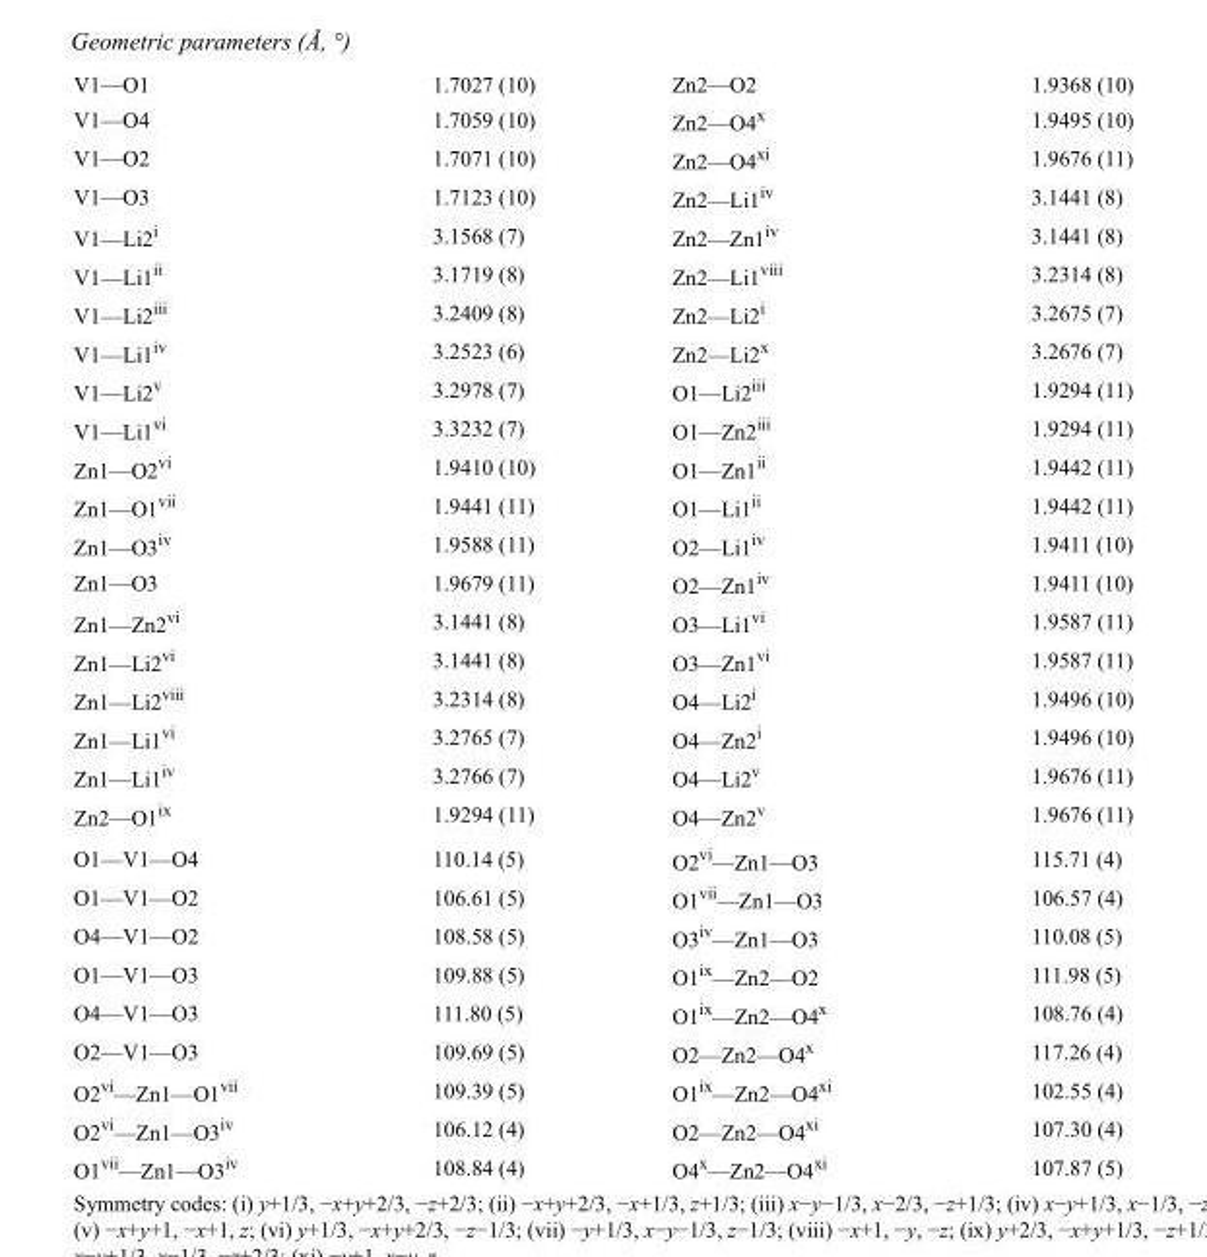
<table><tbody><tr><td>V1—O1</td><td>1.7027 (10)</td><td>Zn2—O2</td><td>1.9368 (10)</td></tr><tr><td>V1—O4</td><td>1.7059 (10)</td><td>Zn2—O4<sup>x</sup></td><td>1.9495 (10)</td></tr><tr><td>V1—O2</td><td>1.7071 (10)</td><td>Zn2—O4<sup>xi</sup></td><td>1.9676 (11)</td></tr><tr><td>V1—O3</td><td>1.7123 (10)</td><td>Zn2—Li1<sup>iv</sup></td><td>3.1441 (8)</td></tr><tr><td>V1—Li2<sup>i</sup></td><td>3.1568 (7)</td><td>Zn2—Zn1<sup>iv</sup></td><td>3.1441 (8)</td></tr><tr><td>V1—Li1<sup>ii</sup></td><td>3.1719 (8)</td><td>Zn2—Li1<sup>viii</sup></td><td>3.2314 (8)</td></tr><tr><td>V1—Li2<sup>iii</sup></td><td>3.2409 (8)</td><td>Zn2—Li2<sup>i</sup></td><td>3.2675 (7)</td></tr><tr><td>V1—Li1<sup>iv</sup></td><td>3.2523 (6)</td><td>Zn2—Li2<sup>x</sup></td><td>3.2676 (7)</td></tr><tr><td>V1—Li2<sup>v</sup></td><td>3.2978 (7)</td><td>O1—Li2<sup>iii</sup></td><td>1.9294 (11)</td></tr><tr><td>V1—Li1<sup>vi</sup></td><td>3.3232 (7)</td><td>O1—Zn2<sup>iii</sup></td><td>1.9294 (11)</td></tr><tr><td>Zn1—O2<sup>vi</sup></td><td>1.9410 (10)</td><td>O1—Zn1<sup>ii</sup></td><td>1.9442 (11)</td></tr><tr><td>Zn1—O1<sup>vii</sup></td><td>1.9441 (11)</td><td>O1—Li1<sup>ii</sup></td><td>1.9442 (11)</td></tr><tr><td>Zn1—O3<sup>iv</sup></td><td>1.9588 (11)</td><td>O2—Li1<sup>iv</sup></td><td>1.9411 (10)</td></tr><tr><td>Zn1—O3</td><td>1.9679 (11)</td><td>O2—Zn1<sup>iv</sup></td><td>1.9411 (10)</td></tr><tr><td>Zn1—Zn2<sup>vi</sup></td><td>3.1441 (8)</td><td>O3—Li1<sup>vi</sup></td><td>1.9587 (11)</td></tr><tr><td>Zn1—Li2<sup>vi</sup></td><td>3.1441 (8)</td><td>O3—Zn1<sup>vi</sup></td><td>1.9587 (11)</td></tr><tr><td>Zn1—Li2<sup>viii</sup></td><td>3.2314 (8)</td><td>O4—Li2<sup>i</sup></td><td>1.9496 (10)</td></tr><tr><td>Zn1—Li1<sup>vi</sup></td><td>3.2765 (7)</td><td>O4—Zn2<sup>i</sup></td><td>1.9496 (10)</td></tr><tr><td>Zn1—Li1<sup>iv</sup></td><td>3.2766 (7)</td><td>O4—Li2<sup>v</sup></td><td>1.9676 (11)</td></tr><tr><td>Zn2—O1<sup>ix</sup></td><td>1.9294 (11)</td><td>O4—Zn2<sup>v</sup></td><td>1.9676 (11)</td></tr><tr><td>O1—V1—O4</td><td>110.14 (5)</td><td>O2<sup>vi</sup>—Zn1—O3</td><td>115.71 (4)</td></tr><tr><td>O1—V1—O2</td><td>106.61 (5)</td><td>O1<sup>vii</sup>—Zn1—O3</td><td>106.57 (4)</td></tr><tr><td>O4—V1—O2</td><td>108.58 (5)</td><td>O3<sup>iv</sup>—Zn1—O3</td><td>110.08 (5)</td></tr><tr><td>O1—V1—O3</td><td>109.88 (5)</td><td>O1<sup>ix</sup>—Zn2—O2</td><td>111.98 (5)</td></tr><tr><td>O4—V1—O3</td><td>111.80 (5)</td><td>O1<sup>ix</sup>—Zn2—O4<sup>x</sup></td><td>108.76 (4)</td></tr><tr><td>O2—V1—O3</td><td>109.69 (5)</td><td>O2—Zn2—O4<sup>x</sup></td><td>117.26 (4)</td></tr><tr><td>O2<sup>vi</sup>—Zn1—O1<sup>vii</sup></td><td>109.39 (5)</td><td>O1<sup>ix</sup>—Zn2—O4<sup>xi</sup></td><td>102.55 (4)</td></tr><tr><td>O2<sup>vi</sup>—Zn1—O3<sup>iv</sup></td><td>106.12 (4)</td><td>O2—Zn2—O4<sup>xi</sup></td><td>107.30 (4)</td></tr><tr><td>O1<sup>vii</sup>—Zn1—O3<sup>iv</sup></td><td>108.84 (4)</td><td>O4<sup>x</sup>—Zn2—O4<sup>xi</sup></td><td>107.87 (5)</td></tr></tbody></table>